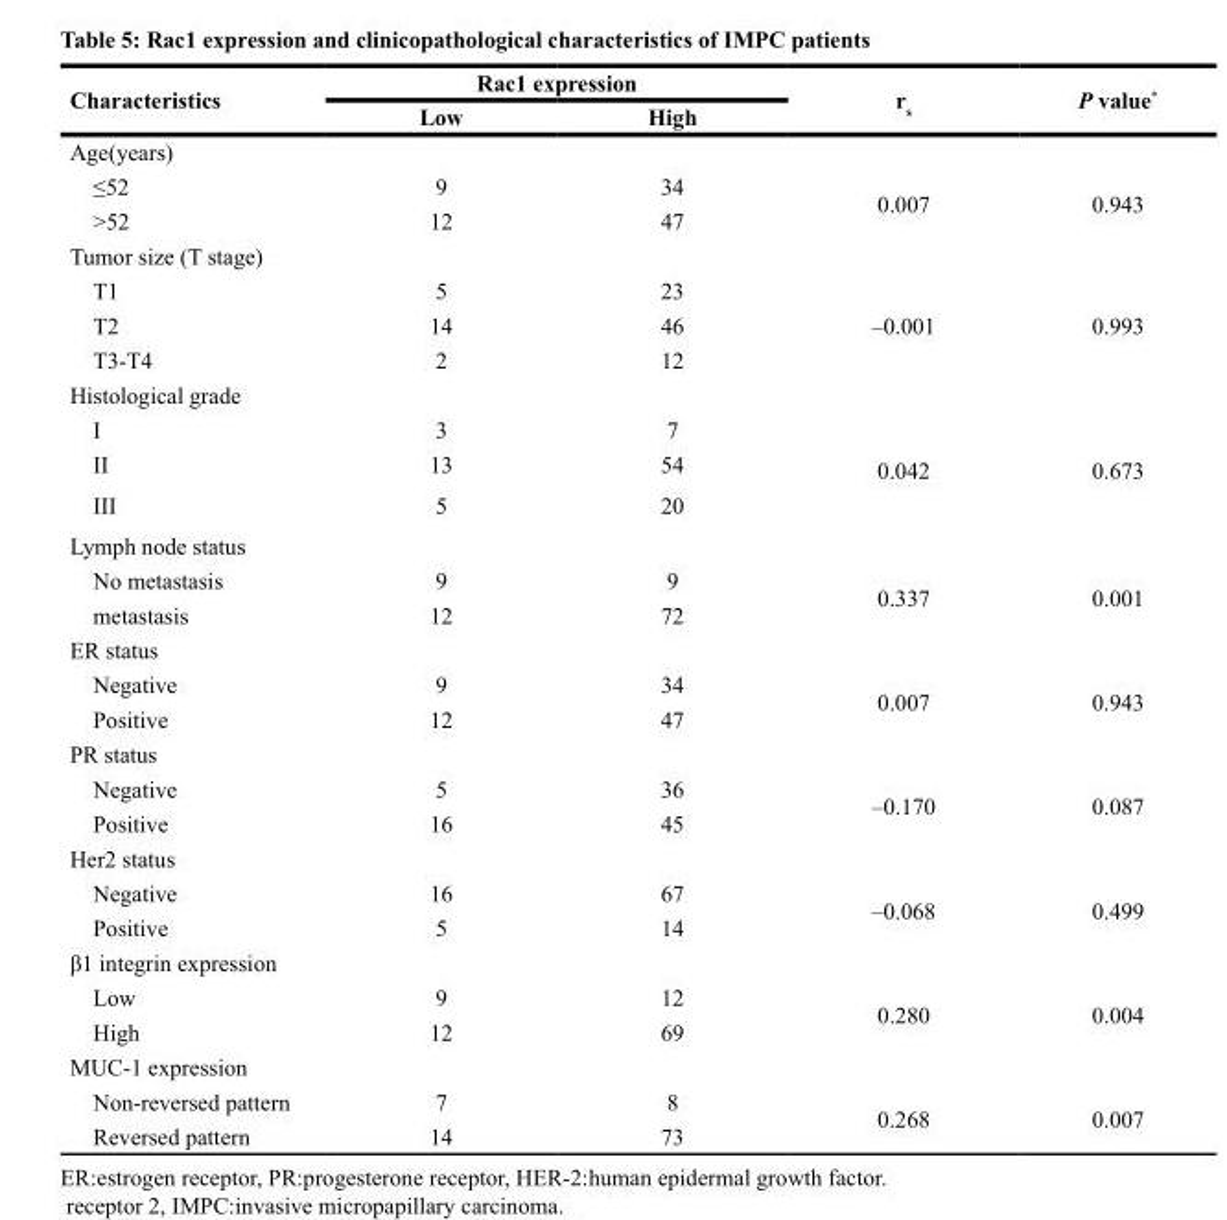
<table><thead><tr><td rowspan="2">Characteristics</td><td colspan="2">Rac1 expression</td><td rowspan="2">r<sub>s</sub></td><td rowspan="2">P value*</td></tr><tr><td>Low</td><td>High</td></tr></thead><tbody><tr><td colspan="5">Age(years)</td></tr><tr><td>≤52</td><td>9</td><td>34</td><td rowspan="2">0.007</td><td rowspan="2">0.943</td></tr><tr><td>﹥52</td><td>12</td><td>47</td></tr><tr><td colspan="5">Tumor size (T stage)</td></tr><tr><td>T1</td><td>5</td><td>23</td><td rowspan="3">–0.001</td><td rowspan="3">0.993</td></tr><tr><td>T2</td><td>14</td><td>46</td></tr><tr><td>T3-T4</td><td>2</td><td>12</td></tr><tr><td colspan="5">Histological grade</td></tr><tr><td>I</td><td>3</td><td>7</td><td rowspan="3">0.042</td><td rowspan="3">0.673</td></tr><tr><td>II</td><td>13</td><td>54</td></tr><tr><td>III</td><td>5</td><td>20</td></tr><tr><td colspan="5">Lymph node status</td></tr><tr><td>No metastasis</td><td>9</td><td>9</td><td rowspan="2">0.337</td><td rowspan="2">0.001</td></tr><tr><td>metastasis</td><td>12</td><td>72</td></tr><tr><td colspan="5">ER status</td></tr><tr><td>Negative</td><td>9</td><td>34</td><td rowspan="2">0.007</td><td rowspan="2">0.943</td></tr><tr><td>Positive</td><td>12</td><td>47</td></tr><tr><td colspan="5">PR status</td></tr><tr><td>Negative</td><td>5</td><td>36</td><td rowspan="2">–0.170</td><td rowspan="2">0.087</td></tr><tr><td>Positive</td><td>16</td><td>45</td></tr><tr><td colspan="5">Her2 status</td></tr><tr><td>Negative</td><td>16</td><td>67</td><td rowspan="2">–0.068</td><td rowspan="2">0.499</td></tr><tr><td>Positive</td><td>5</td><td>14</td></tr><tr><td colspan="5">β1 integrin expression</td></tr><tr><td>Low</td><td>9</td><td>12</td><td rowspan="2">0.280</td><td rowspan="2">0.004</td></tr><tr><td>High</td><td>12</td><td>69</td></tr><tr><td colspan="5">MUC-1 expression</td></tr><tr><td>Non-reversed pattern</td><td>7</td><td>8</td><td rowspan="2">0.268</td><td rowspan="2">0.007</td></tr><tr><td>Reversed pattern</td><td>14</td><td>73</td></tr></tbody></table>